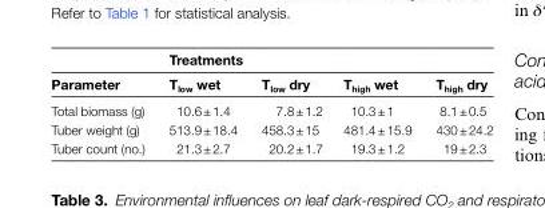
<table><thead><tr><td rowspan="2">Parameter</td><td colspan="4">Treatments</td></tr><tr><td>T<sub>low</sub> wet</td><td>T<sub>low</sub> dry</td><td>T<sub>high</sub> wet</td><td>T<sub>high</sub> dry</td></tr></thead><tbody><tr><td>Total biomass (g)</td><td>10.6 ± 1.4</td><td>7.8 ± 1.2</td><td>10.3 ± 1</td><td>8.1 ± 0.5</td></tr><tr><td>Tuber weight (g)</td><td>513.9 ± 18.4</td><td>458.3 ± 15</td><td>481.4 ± 15.9</td><td>430 ± 24.2</td></tr><tr><td>Tuber count (no.)</td><td>21.3 ± 2.7</td><td>20.2 ± 1.7</td><td>19.3 ± 1.2</td><td>19 ± 2.3</td></tr></tbody></table>